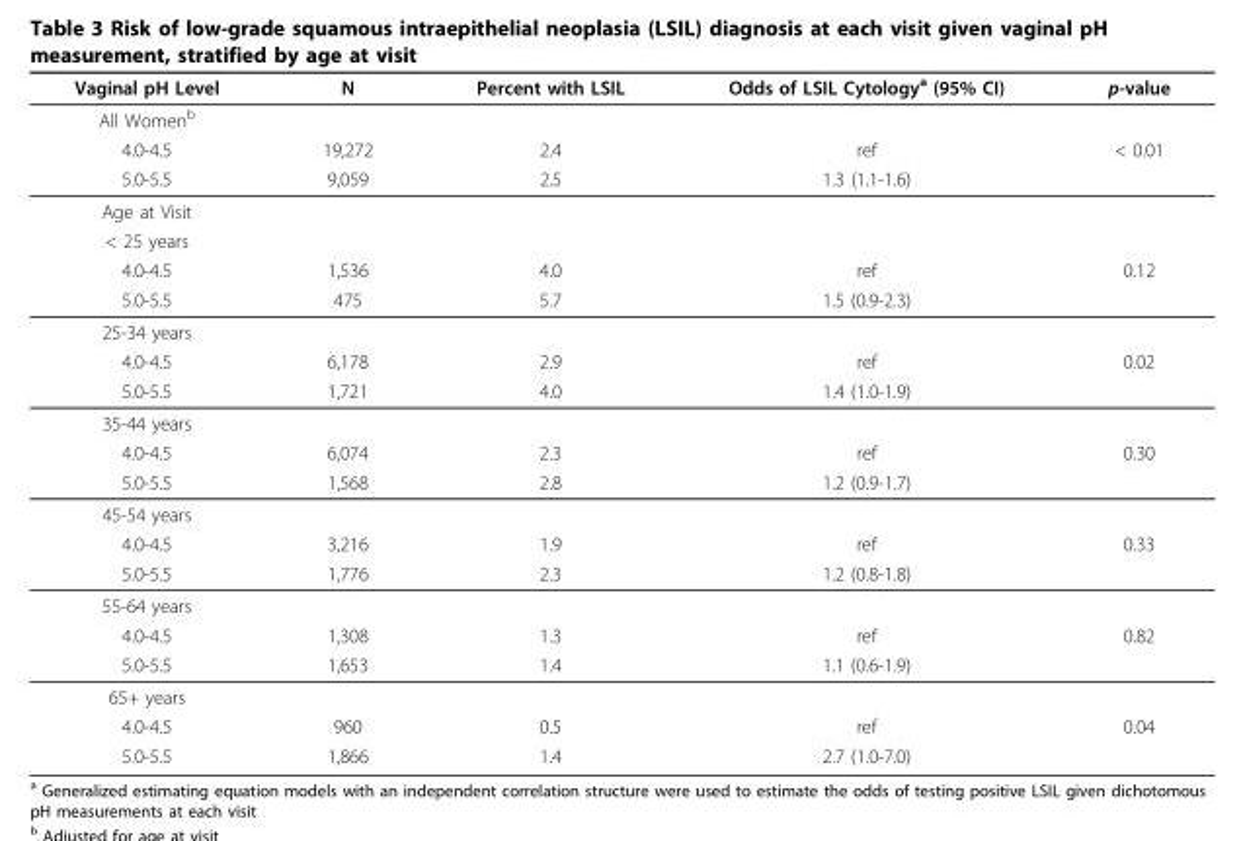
<table><thead><tr><td>Vaginal pH Level</td><td>N</td><td>Percent with LSIL</td><td>Odds of LSIL Cytology<sup>a</sup> (95% CI)</td><td>p-value</td></tr></thead><tbody><tr><td colspan="5">All Women<sup>b</sup></td></tr><tr><td>4.0-4.5</td><td>19,272</td><td>2.4</td><td>ref</td><td>&lt; 0.01</td></tr><tr><td>5.0-5.5</td><td>9,059</td><td>2.5</td><td>1.3 (1.1-1.6)</td><td></td></tr><tr><td colspan="5">Age at Visit</td></tr><tr><td colspan="5">&lt; 25 years</td></tr><tr><td>4.0-4.5</td><td>1,536</td><td>4.0</td><td>ref</td><td>0.12</td></tr><tr><td>5.0-5.5</td><td>475</td><td>5.7</td><td>1.5 (0.9-2.3)</td><td></td></tr><tr><td colspan="5">25-34 years</td></tr><tr><td>4.0-4.5</td><td>6,178</td><td>2.9</td><td>ref</td><td>0.02</td></tr><tr><td>5.0-5.5</td><td>1,721</td><td>4.0</td><td>1.4 (1.0-1.9)</td><td></td></tr><tr><td colspan="5">35-44 years</td></tr><tr><td>4.0-4.5</td><td>6,074</td><td>2.3</td><td>ref</td><td>0.30</td></tr><tr><td>5.0-5.5</td><td>1,568</td><td>2.8</td><td>1.2 (0.9-1.7)</td><td></td></tr><tr><td colspan="5">45-54 years</td></tr><tr><td>4.0-4.5</td><td>3,216</td><td>1.9</td><td>ref</td><td>0.33</td></tr><tr><td>5.0-5.5</td><td>1,776</td><td>2.3</td><td>1.2 (0.8-1.8)</td><td></td></tr><tr><td colspan="5">55-64 years</td></tr><tr><td>4.0-4.5</td><td>1,308</td><td>1.3</td><td>ref</td><td>0.82</td></tr><tr><td>5.0-5.5</td><td>1,653</td><td>1.4</td><td>1.1 (0.6-1.9)</td><td></td></tr><tr><td colspan="5">65+ years</td></tr><tr><td>4.0-4.5</td><td>960</td><td>0.5</td><td>ref</td><td>0.04</td></tr><tr><td>5.0-5.5</td><td>1,866</td><td>1.4</td><td>2.7 (1.0-7.0)</td><td></td></tr></tbody></table>